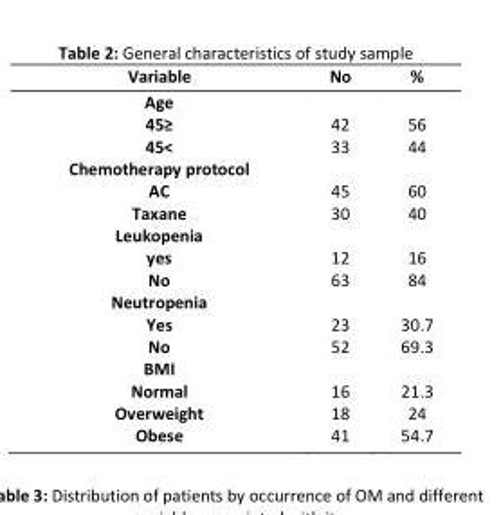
<table><thead><tr><td>Variable</td><td>No</td><td>%</td></tr></thead><tbody><tr><td>Age 45≥ 45&lt;</td><td>42 33</td><td>56 44</td></tr><tr><td>Chemotherapy protocol AC Taxane</td><td>45 30</td><td>60 40</td></tr><tr><td>Leukopenia yes No</td><td>12 63</td><td>16 84</td></tr><tr><td>Neutropenia Yes No</td><td>23 52</td><td>30.7 69.3</td></tr><tr><td>BMI Normal Overweight Obese</td><td>16 18 41</td><td>21.3 24 54.7</td></tr></tbody></table>